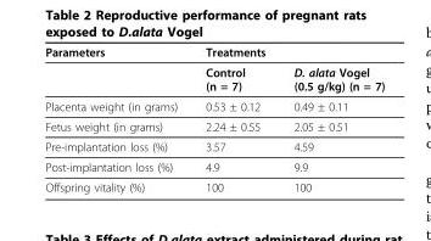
<table><thead><tr><td>Parameters</td><td>Treatments</td><td></td></tr></thead><tbody><tr><td></td><td>Control (n = 7)</td><td>D. alata Vogel (0.5 g/kg) (n = 7)</td></tr><tr><td>Placenta weight (in grams)</td><td>0.53 ± 0.12</td><td>0.49 ± 0.11</td></tr><tr><td>Fetus weight (in grams)</td><td>2.24 ± 0.55</td><td>2.05 ± 0.51</td></tr><tr><td>Pre-implantation loss (%)</td><td>3.57</td><td>4.59</td></tr><tr><td>Post-implantation loss (%)</td><td>4.9</td><td>9.9</td></tr><tr><td>Offspring vitality (%)</td><td>100</td><td>100</td></tr></tbody></table>